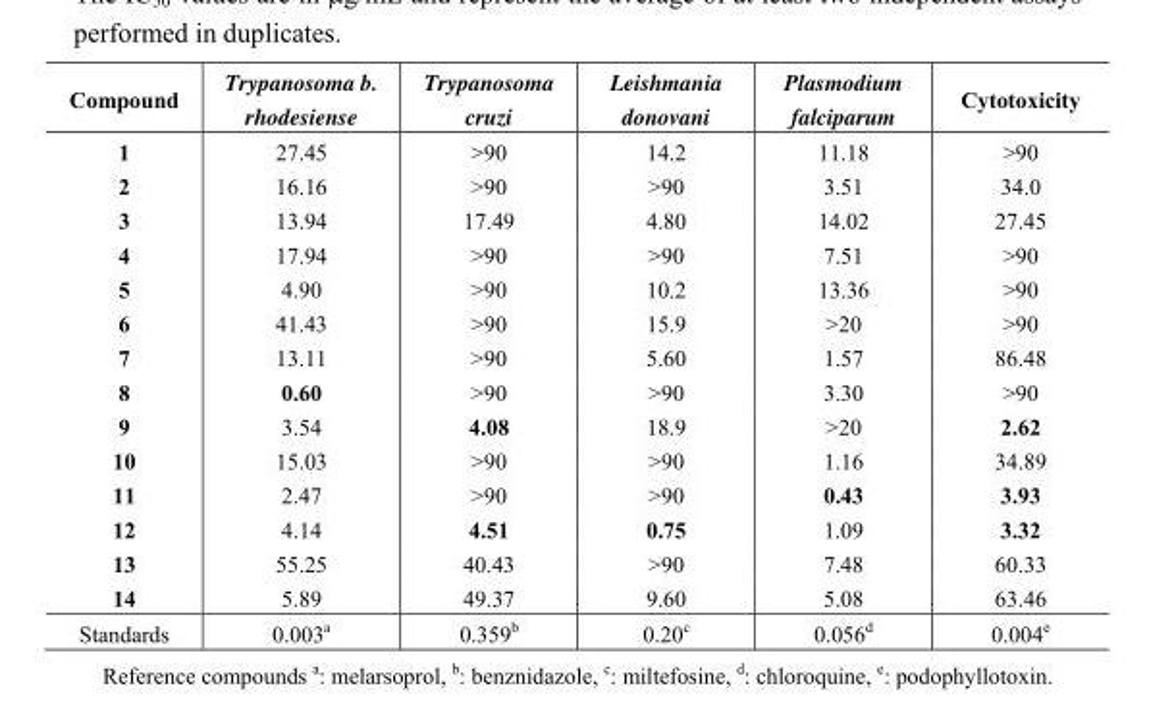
<table><thead><tr><td>Compound</td><td>Trypanosoma b. rhodesiense</td><td>Trypanosoma cruzi</td><td>Leishmania donovani</td><td>Plasmodium falciparum</td><td>Cytotoxicity</td></tr></thead><tbody><tr><td>1</td><td>27.45</td><td>&gt;90</td><td>14.2</td><td>11.18</td><td>&gt;90</td></tr><tr><td>2</td><td>16.16</td><td>&gt;90</td><td>&gt;90</td><td>3.51</td><td>34.0</td></tr><tr><td>3</td><td>13.94</td><td>17.49</td><td>4.80</td><td>14.02</td><td>27.45</td></tr><tr><td>4</td><td>17.94</td><td>&gt;90</td><td>&gt;90</td><td>7.51</td><td>&gt;90</td></tr><tr><td>5</td><td>4.90</td><td>&gt;90</td><td>10.2</td><td>13.36</td><td>&gt;90</td></tr><tr><td>6</td><td>41.43</td><td>&gt;90</td><td>15.9</td><td>&gt;20</td><td>&gt;90</td></tr><tr><td>7</td><td>13.11</td><td>&gt;90</td><td>5.60</td><td>1.57</td><td>86.48</td></tr><tr><td>8</td><td>0.60</td><td>&gt;90</td><td>&gt;90</td><td>3.30</td><td>&gt;90</td></tr><tr><td>9</td><td>3.54</td><td>4.08</td><td>18.9</td><td>&gt;20</td><td>2.62</td></tr><tr><td>10</td><td>15.03</td><td>&gt;90</td><td>&gt;90</td><td>1.16</td><td>34.89</td></tr><tr><td>11</td><td>2.47</td><td>&gt;90</td><td>&gt;90</td><td>0.43</td><td>3.93</td></tr><tr><td>12</td><td>4.14</td><td>4.51</td><td>0.75</td><td>1.09</td><td>3.32</td></tr><tr><td>13</td><td>55.25</td><td>40.43</td><td>&gt;90</td><td>7.48</td><td>60.33</td></tr><tr><td>14</td><td>5.89</td><td>49.37</td><td>9.60</td><td>5.08</td><td>63.46</td></tr><tr><td>Standards</td><td>0.003<sup>a</sup></td><td>0.359<sup>b</sup></td><td>0.20<sup>c</sup></td><td>0.056<sup>d</sup></td><td>0.004<sup>e</sup></td></tr></tbody></table>